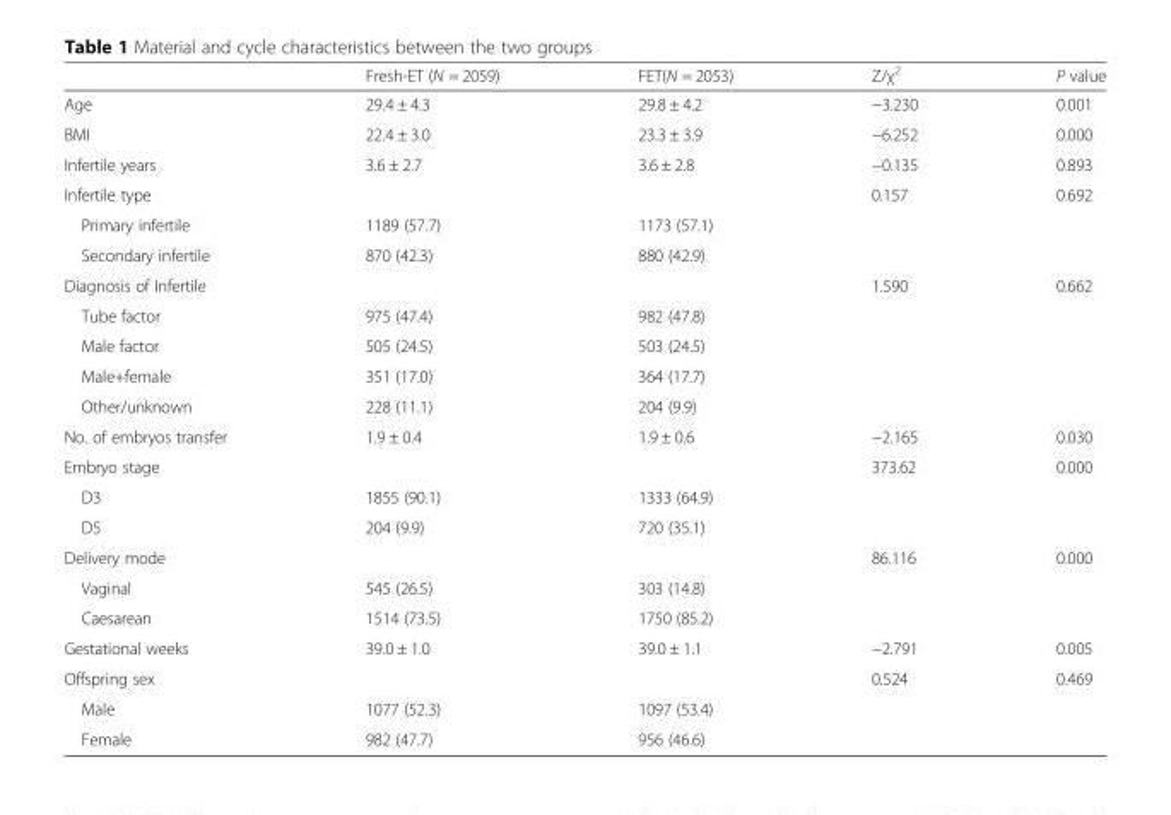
<table><thead><tr><td></td><td>Fresh-ET (N = 2059)</td><td>FET(N = 2053)</td><td>Z/χ<sup>2</sup></td><td>P value</td></tr></thead><tbody><tr><td>Age</td><td>29.4 ± 4.3</td><td>29.8 ± 4.2</td><td>−3.230</td><td>0.001</td></tr><tr><td>BMI</td><td>22.4 ± 3.0</td><td>23.3 ± 3.9</td><td>−6.252</td><td>0.000</td></tr><tr><td>Infertile years</td><td>3.6 ± 2.7</td><td>3.6 ± 2.8</td><td>−0.135</td><td>0.893</td></tr><tr><td>Infertile type</td><td></td><td></td><td>0.157</td><td>0.692</td></tr><tr><td>Primary infertile</td><td>1189 (57.7)</td><td>1173 (57.1)</td><td></td><td></td></tr><tr><td>Secondary infertile</td><td>870 (42.3)</td><td>880 (42.9)</td><td></td><td></td></tr><tr><td>Diagnosis of Infertile</td><td></td><td></td><td>1.590</td><td>0.662</td></tr><tr><td>Tube factor</td><td>975 (47.4)</td><td>982 (47.8)</td><td></td><td></td></tr><tr><td>Male factor</td><td>505 (24.5)</td><td>503 (24.5)</td><td></td><td></td></tr><tr><td>Male+female</td><td>351 (17.0)</td><td>364 (17.7)</td><td></td><td></td></tr><tr><td>Other/unknown</td><td>228 (11.1)</td><td>204 (9.9)</td><td></td><td></td></tr><tr><td>No. of embryos transfer</td><td>1.9 ± 0.4</td><td>1.9 ± 0.6</td><td>−2.165</td><td>0.030</td></tr><tr><td>Embryo stage</td><td></td><td></td><td>373.62</td><td>0.000</td></tr><tr><td>D3</td><td>1855 (90.1)</td><td>1333 (64.9)</td><td></td><td></td></tr><tr><td>D5</td><td>204 (9.9)</td><td>720 (35.1)</td><td></td><td></td></tr><tr><td>Delivery mode</td><td></td><td></td><td>86.116</td><td>0.000</td></tr><tr><td>Vaginal</td><td>545 (26.5)</td><td>303 (14.8)</td><td></td><td></td></tr><tr><td>Caesarean</td><td>1514 (73.5)</td><td>1750 (85.2)</td><td></td><td></td></tr><tr><td>Gestational weeks</td><td>39.0 ± 1.0</td><td>39.0 ± 1.1</td><td>−2.791</td><td>0.005</td></tr><tr><td>Offspring sex</td><td></td><td></td><td>0.524</td><td>0.469</td></tr><tr><td>Male</td><td>1077 (52.3)</td><td>1097 (53.4)</td><td></td><td></td></tr><tr><td>Female</td><td>982 (47.7)</td><td>956 (46.6)</td><td></td><td></td></tr></tbody></table>